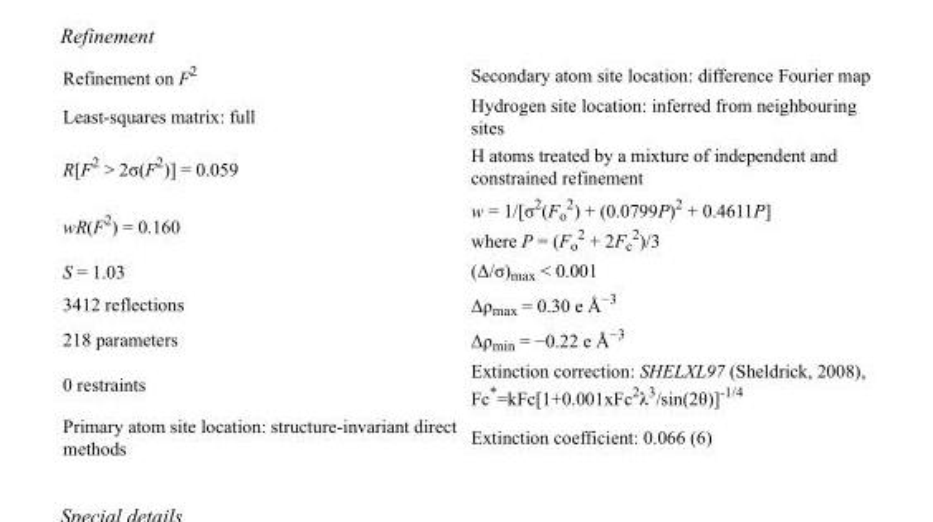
<table><tbody><tr><td>Refinement on F<sup>2</sup></td><td>Secondary atom site location: difference Fourier map</td></tr><tr><td>Least-squares matrix: full</td><td>Hydrogen site location: inferred from neighbouring sites</td></tr><tr><td>R[F<sup>2</sup> &gt; 2σ(F<sup>2</sup>)] = 0.059</td><td>H atoms treated by a mixture of independent and constrained refinement</td></tr><tr><td>wR(F<sup>2</sup>) = 0.160</td><td>w = 1/[σ<sup>2</sup>(F<sub>o</sub> <sup>2</sup>) + (0.0799P)<sup>2</sup> + 0.4611P] where P = (F<sub>o</sub> <sup>2</sup> + 2F<sub>c</sub> <sup>2</sup>)/3</td></tr><tr><td>S = 1.03</td><td>(Δ/σ)<sub>max</sub> &lt; 0.001</td></tr><tr><td>3412 reflections</td><td>Δρ<sub>max</sub> = 0.30 e Å<sup>−3</sup></td></tr><tr><td>218 parameters</td><td>Δρ<sub>min</sub> = −0.22 e Å<sup>−3</sup></td></tr><tr><td>0 restraints</td><td>Extinction correction: SHELXL97 (Sheldrick, 2008), Fc*=kFc[1+0.001xFc<sup>2</sup>λ<sup>3</sup>/sin(2θ)]<sup>-1/4</sup></td></tr><tr><td>Primary atom site location: structure-invariant direct methods</td><td>Extinction coefficient: 0.066 (6)</td></tr></tbody></table>